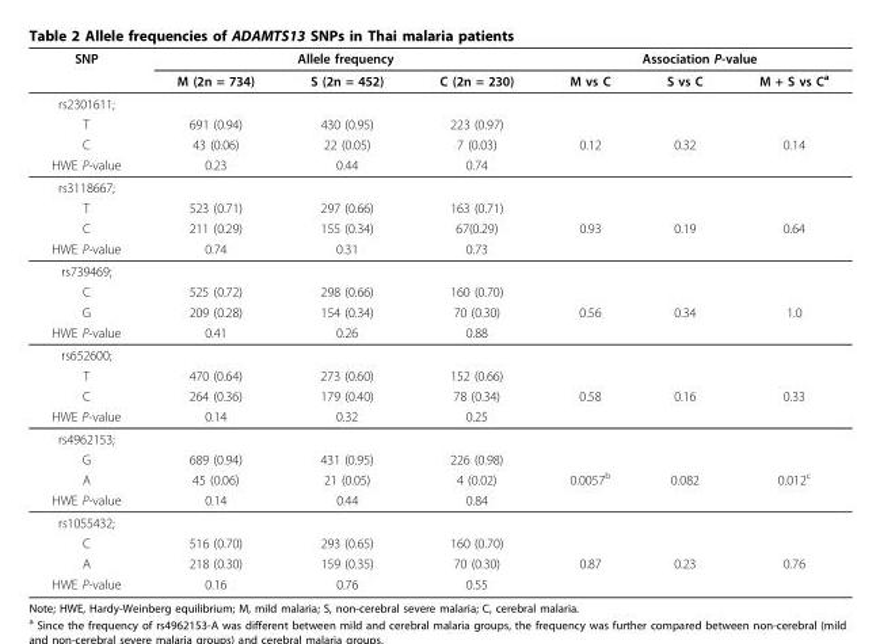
<table><thead><tr><td rowspan="2">SNP</td><td colspan="3">Allele frequency</td><td colspan="3">Association P-value</td></tr><tr><td>M (2n = 734)</td><td>S (2n = 452)</td><td>C (2n = 230)</td><td>M vs C</td><td>S vs C</td><td>M + S vs C<sup>a</sup></td></tr></thead><tbody><tr><td colspan="7">rs2301611;</td></tr><tr><td>T</td><td>691 (0.94)</td><td>430 (0.95)</td><td>223 (0.97)</td><td></td><td></td><td></td></tr><tr><td>C</td><td>43 (0.06)</td><td>22 (0.05)</td><td>7 (0.03)</td><td>0.12</td><td>0.32</td><td>0.14</td></tr><tr><td>HWE P-value</td><td>0.23</td><td>0.44</td><td>0.74</td><td></td><td></td><td></td></tr><tr><td colspan="7">rs3118667;</td></tr><tr><td>T</td><td>523 (0.71)</td><td>297 (0.66)</td><td>163 (0.71)</td><td></td><td></td><td></td></tr><tr><td>C</td><td>211 (0.29)</td><td>155 (0.34)</td><td>67(0.29)</td><td>0.93</td><td>0.19</td><td>0.64</td></tr><tr><td>HWE P-value</td><td>0.74</td><td>0.31</td><td>0.73</td><td></td><td></td><td></td></tr><tr><td colspan="7">rs739469;</td></tr><tr><td>C</td><td>525 (0.72)</td><td>298 (0.66)</td><td>160 (0.70)</td><td></td><td></td><td></td></tr><tr><td>G</td><td>209 (0.28)</td><td>154 (0.34)</td><td>70 (0.30)</td><td>0.56</td><td>0.34</td><td>1.0</td></tr><tr><td>HWE P-value</td><td>0.41</td><td>0.26</td><td>0.88</td><td></td><td></td><td></td></tr><tr><td colspan="7">rs652600;</td></tr><tr><td>T</td><td>470 (0.64)</td><td>273 (0.60)</td><td>152 (0.66)</td><td></td><td></td><td></td></tr><tr><td>C</td><td>264 (0.36)</td><td>179 (0.40)</td><td>78 (0.34)</td><td>0.58</td><td>0.16</td><td>0.33</td></tr><tr><td>HWE P-value</td><td>0.14</td><td>0.32</td><td>0.25</td><td></td><td></td><td></td></tr><tr><td colspan="7">rs4962153;</td></tr><tr><td>G</td><td>689 (0.94)</td><td>431 (0.95)</td><td>226 (0.98)</td><td></td><td></td><td></td></tr><tr><td>A</td><td>45 (0.06)</td><td>21 (0.05)</td><td>4 (0.02)</td><td>0.0057<sup>b</sup></td><td>0.082</td><td>0.012<sup>c</sup></td></tr><tr><td>HWE P-value</td><td>0.14</td><td>0.44</td><td>0.84</td><td></td><td></td><td></td></tr><tr><td colspan="7">rs1055432;</td></tr><tr><td>C</td><td>516 (0.70)</td><td>293 (0.65)</td><td>160 (0.70)</td><td></td><td></td><td></td></tr><tr><td>A</td><td>218 (0.30)</td><td>159 (0.35)</td><td>70 (0.30)</td><td>0.87</td><td>0.23</td><td>0.76</td></tr><tr><td>HWE P-value</td><td>0.16</td><td>0.76</td><td>0.55</td><td></td><td></td><td></td></tr></tbody></table>